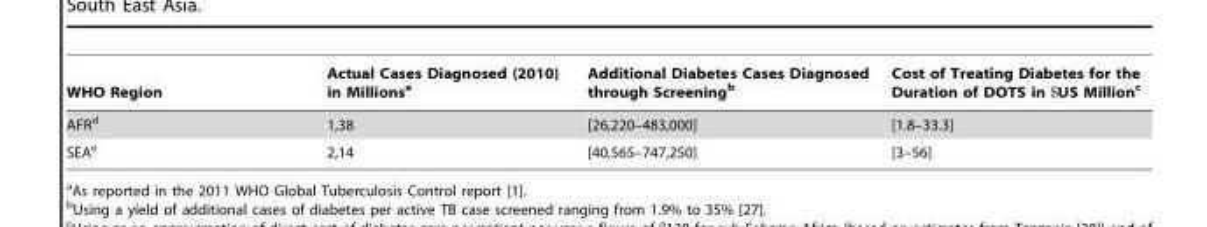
<table><thead><tr><td>WHO Region</td><td>Actual Cases Diagnosed (2010) in Millions<sup>a</sup></td><td>Additional Diabetes Cases Diagnosed through Screening<sup>b</sup></td><td>Cost of Treating Diabetes for the Duration of DOTS in $US Million<sup>c</sup></td></tr></thead><tbody><tr><td>AFR<sup>d</sup></td><td>1,38</td><td>[26,220–483,000]</td><td>[1.8–33.3]</td></tr><tr><td>SEA<sup>e</sup></td><td>2,14</td><td>[40,565–747,250]</td><td>[3–56]</td></tr></tbody></table>